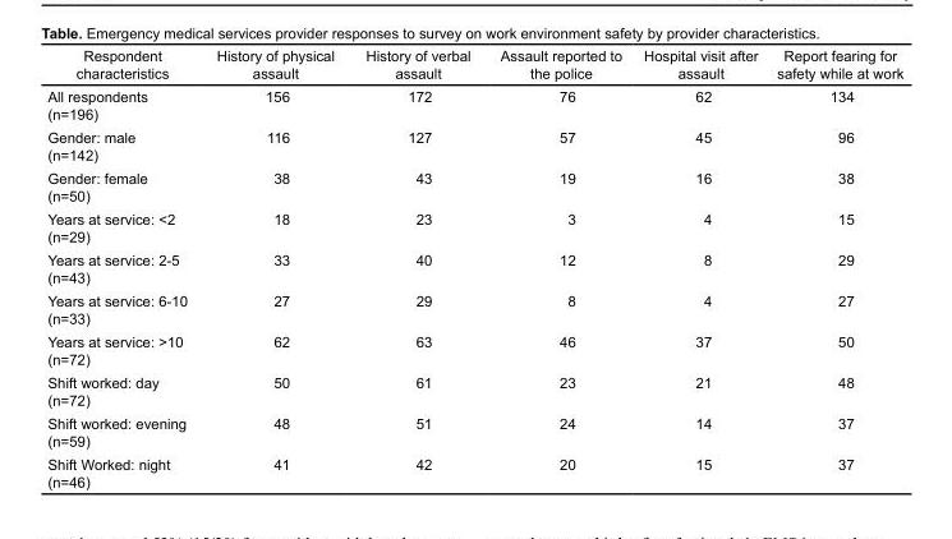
<table><thead><tr><td>Respondent characteristics</td><td>History of physical assault</td><td>History of verbal assault</td><td>Assault reported to the police</td><td>Hospital visit after assault</td><td>Report fearing for safety while at work</td></tr></thead><tbody><tr><td>All respondents (n=196)</td><td>156</td><td>172</td><td>76</td><td>62</td><td>134</td></tr><tr><td>Gender: male (n=142)</td><td>116</td><td>127</td><td>57</td><td>45</td><td>96</td></tr><tr><td>Gender: female (n=50)</td><td>38</td><td>43</td><td>19</td><td>16</td><td>38</td></tr><tr><td>Years at service: &lt;2 (n=29)</td><td>18</td><td>23</td><td>3</td><td>4</td><td>15</td></tr><tr><td>Years at service: 2-5 (n=43)</td><td>33</td><td>40</td><td>12</td><td>8</td><td>29</td></tr><tr><td>Years at service: 6-10 (n=33)</td><td>27</td><td>29</td><td>8</td><td>4</td><td>27</td></tr><tr><td>Years at service: &gt;10 (n=72)</td><td>62</td><td>63</td><td>46</td><td>37</td><td>50</td></tr><tr><td>Shift worked: day (n=72)</td><td>50</td><td>61</td><td>23</td><td>21</td><td>48</td></tr><tr><td>Shift worked: evening (n=59)</td><td>48</td><td>51</td><td>24</td><td>14</td><td>37</td></tr><tr><td>Shift Worked: night (n=46)</td><td>41</td><td>42</td><td>20</td><td>15</td><td>37</td></tr></tbody></table>